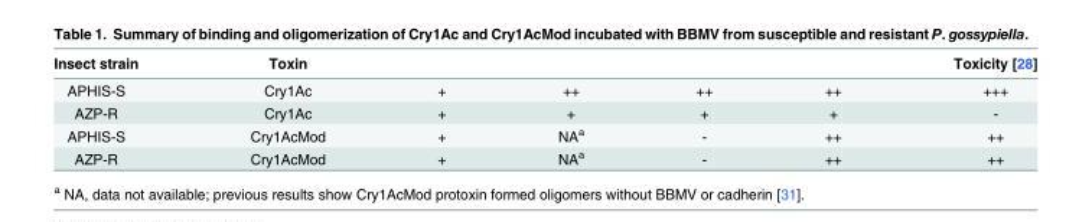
<table><thead><tr><td>Insect strain</td><td>Toxin</td><td></td><td></td><td></td><td></td><td>Toxicity [28]</td></tr></thead><tbody><tr><td>APHIS-S</td><td>Cry1Ac</td><td>+</td><td>++</td><td>++</td><td>++</td><td>+++</td></tr><tr><td>AZP-R</td><td>Cry1Ac</td><td>+</td><td>+</td><td>+</td><td>+</td><td>-</td></tr><tr><td>APHIS-S</td><td>Cry1AcMod</td><td>+</td><td>NA<sup>a</sup></td><td>-</td><td>++</td><td>++</td></tr><tr><td>AZP-R</td><td>Cry1AcMod</td><td>+</td><td>NA<sup>a</sup></td><td>-</td><td>++</td><td>++</td></tr></tbody></table>